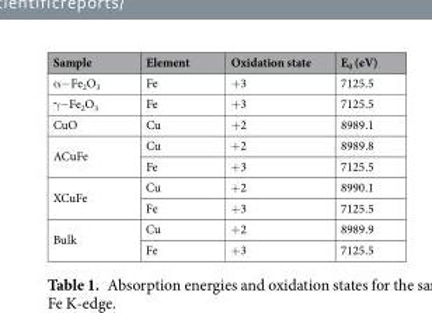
<table><thead><tr><td>Sample</td><td>Element</td><td>Oxidation state</td><td>E<sub>0</sub> (eV)</td></tr></thead><tbody><tr><td>α−Fe<sub>2</sub>O<sub>3</sub></td><td>Fe</td><td>+3</td><td>7125.5</td></tr><tr><td>γ−Fe<sub>2</sub>O<sub>3</sub></td><td>Fe</td><td>+3</td><td>7125.5</td></tr><tr><td>CuO</td><td>Cu</td><td>+2</td><td>8989.1</td></tr><tr><td rowspan="2">ACuFe</td><td>Cu</td><td>+2</td><td>8989.8</td></tr><tr><td>Fe</td><td>+3</td><td>7125.5</td></tr><tr><td rowspan="2">XCuFe</td><td>Cu</td><td>+2</td><td>8990.1</td></tr><tr><td>Fe</td><td>+3</td><td>7125.5</td></tr><tr><td rowspan="2">Bulk</td><td>Cu</td><td>+2</td><td>8989.9</td></tr><tr><td>Fe</td><td>+3</td><td>7125.5</td></tr></tbody></table>